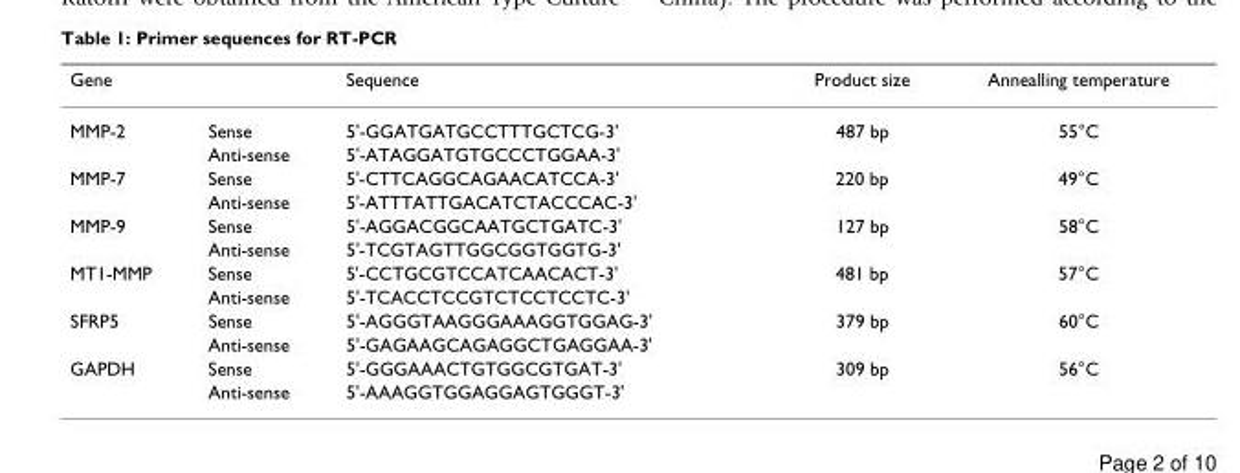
<table><thead><tr><td>Gene</td><td></td><td>Sequence</td><td>Product size</td><td>Annealling temperature</td></tr></thead><tbody><tr><td rowspan="2">MMP-2</td><td>Sense</td><td>5&#x27;-GGATGATGCCTTTGCTCG-3&#x27;</td><td>487 bp</td><td>55°C</td></tr><tr><td>Anti-sense</td><td>5&#x27;-ATAGGATGTGCCCTGGAA-3&#x27;</td><td></td><td></td></tr><tr><td rowspan="2">MMP-7</td><td>Sense</td><td>5&#x27;-CTTCAGGCAGAACATCCA-3&#x27;</td><td>220 bp</td><td>49°C</td></tr><tr><td>Anti-sense</td><td>5&#x27;-ATTTATTGACATCTACCCAC-3&#x27;</td><td></td><td></td></tr><tr><td rowspan="2">MMP-9</td><td>Sense</td><td>5&#x27;-AGGACGGCAATGCTGATC-3&#x27;</td><td>127 bp</td><td>58°C</td></tr><tr><td>Anti-sense</td><td>5&#x27;-TCGTAGTTGGCGGTGGTG-3&#x27;</td><td></td><td></td></tr><tr><td rowspan="2">MT1-MMP</td><td>Sense</td><td>5&#x27;-CCTGCGTCCATCAACACT-3&#x27;</td><td>481 bp</td><td>57°C</td></tr><tr><td>Anti-sense</td><td>5&#x27;-TCACCTCCGTCTCCTCCTC-3&#x27;</td><td></td><td></td></tr><tr><td rowspan="2">SFRP5</td><td>Sense</td><td>5&#x27;-AGGGTAAGGGAAAGGTGGAG-3&#x27;</td><td>379 bp</td><td>60°C</td></tr><tr><td>Anti-sense</td><td>5&#x27;-GAGAAGCAGAGGCTGAGGAA-3&#x27;</td><td></td><td></td></tr><tr><td rowspan="2">GAPDH</td><td>Sense</td><td>5&#x27;-GGGAAACTGTGGCGTGAT-3&#x27;</td><td>309 bp</td><td>56°C</td></tr><tr><td>Anti-sense</td><td>5&#x27;-AAAGGTGGAGGAGTGGGT-3&#x27;</td><td></td><td></td></tr></tbody></table>